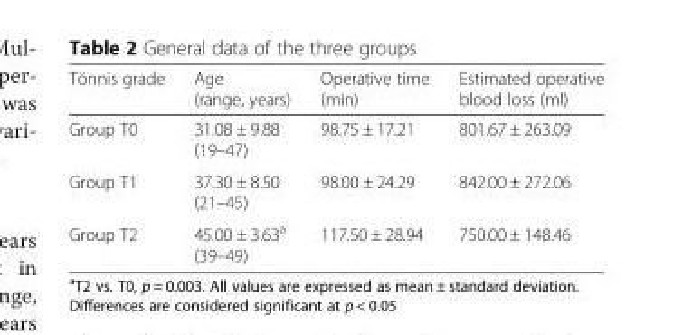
<table><thead><tr><td>Tönnis grade</td><td>Age (range, years)</td><td>Operative time (min)</td><td>Estimated operative blood loss (ml)</td></tr></thead><tbody><tr><td>Group T0</td><td>31.08 ± 9.88 (19–47)</td><td>98.75 ± 17.21</td><td>801.67 ± 263.09</td></tr><tr><td>Group T1</td><td>37.30 ± 8.50 (21–45)</td><td>98.00 ± 24.29</td><td>842.00 ± 272.06</td></tr><tr><td>Group T2</td><td>45.00 ± 3.63<sup>a</sup> (39–49)</td><td>117.50 ± 28.94</td><td>750.00 ± 148.46</td></tr></tbody></table>